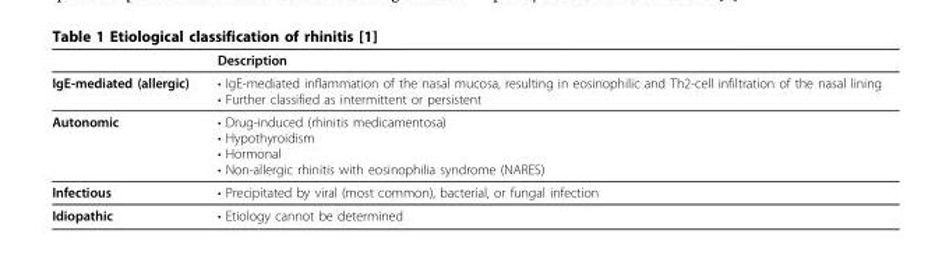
<table><thead><tr><td></td><td>Description</td></tr></thead><tbody><tr><td>IgE-mediated (allergic)</td><td>• IgE-mediated inflammation of the nasal mucosa, resulting in eosinophilic and Th2-cell infiltration of the nasal lining • Further classified as intermittent or persistent</td></tr><tr><td>Autonomic</td><td>• Drug-induced (rhinitis medicamentosa) • Hypothyroidism • Hormonal • Non-allergic rhinitis with eosinophilia syndrome (NARES)</td></tr><tr><td>Infectious</td><td>• Precipitated by viral (most common), bacterial, or fungal infection</td></tr><tr><td>Idiopathic</td><td>• Etiology cannot be determined</td></tr></tbody></table>